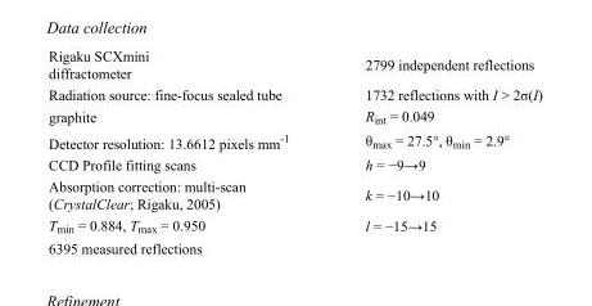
<table><tbody><tr><td>Rigaku SCXmini diffractometer</td><td>2799 independent reflections</td></tr><tr><td>Radiation source: fine-focus sealed tube</td><td>1732 reflections with I &gt; 2σ(I)</td></tr><tr><td>graphite</td><td>R<sub>int</sub> = 0.049</td></tr><tr><td>Detector resolution: 13.6612 pixels mm<sup>-1</sup></td><td>θ<sub>max</sub> = 27.5°, θ<sub>min</sub> = 2.9°</td></tr><tr><td>CCD Profile fitting scans</td><td>h = −9→9</td></tr><tr><td>Absorption correction: multi-scan (CrystalClear; Rigaku, 2005)</td><td>k = −10→10</td></tr><tr><td>T<sub>min</sub> = 0.884, T<sub>max</sub> = 0.950</td><td>l = −15→15</td></tr><tr><td>6395 measured reflections</td><td></td></tr></tbody></table>